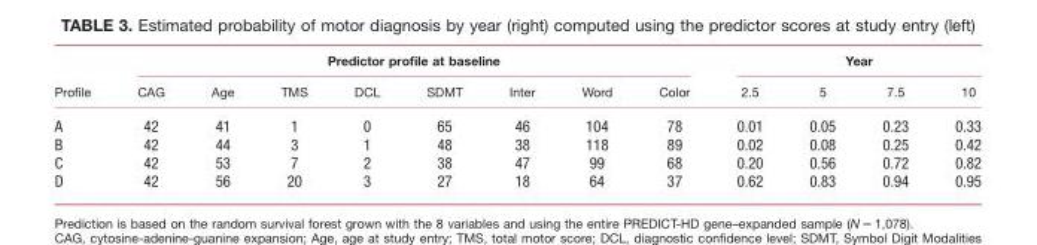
<table><thead><tr><td rowspan="2">Profile</td><td colspan="8">Predictor profile at baseline</td><td colspan="4">Year</td></tr><tr><td>CAG</td><td>Age</td><td>TMS</td><td>DCL</td><td>SDMT</td><td>Inter</td><td>Word</td><td>Color</td><td>2.5</td><td>5</td><td>7.5</td><td>10</td></tr></thead><tbody><tr><td>A</td><td>42</td><td>41</td><td>1</td><td>0</td><td>65</td><td>46</td><td>104</td><td>78</td><td>0.01</td><td>0.05</td><td>0.23</td><td>0.33</td></tr><tr><td>B</td><td>42</td><td>44</td><td>3</td><td>1</td><td>48</td><td>38</td><td>118</td><td>89</td><td>0.02</td><td>0.08</td><td>0.25</td><td>0.42</td></tr><tr><td>C</td><td>42</td><td>53</td><td>7</td><td>2</td><td>38</td><td>47</td><td>99</td><td>68</td><td>0.20</td><td>0.56</td><td>0.72</td><td>0.82</td></tr><tr><td>D</td><td>42</td><td>56</td><td>20</td><td>3</td><td>27</td><td>18</td><td>64</td><td>37</td><td>0.62</td><td>0.83</td><td>0.94</td><td>0.95</td></tr></tbody></table>